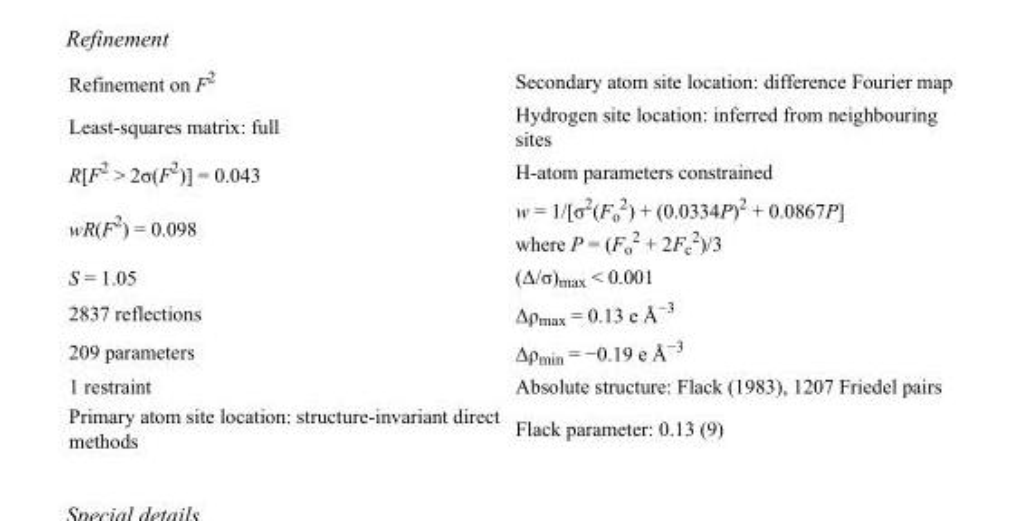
<table><tbody><tr><td>Refinement on F<sup>2</sup></td><td>Secondary atom site location: difference Fourier map</td></tr><tr><td>Least-squares matrix: full</td><td>Hydrogen site location: inferred from neighbouring sites</td></tr><tr><td>R[F<sup>2</sup> &gt; 2σ(F<sup>2</sup>)] = 0.043</td><td>H-atom parameters constrained</td></tr><tr><td>wR(F<sup>2</sup>) = 0.098</td><td>w = 1/[σ<sup>2</sup>(F<sub>o</sub> <sup>2</sup>) + (0.0334P)<sup>2</sup> + 0.0867P] where P = (F<sub>o</sub> <sup>2</sup> + 2F<sub>c</sub> <sup>2</sup>)/3</td></tr><tr><td>S = 1.05</td><td>(Δ/σ)<sub>max</sub> &lt; 0.001</td></tr><tr><td>2837 reflections</td><td>Δρ<sub>max</sub> = 0.13 e Å<sup>−3</sup></td></tr><tr><td>209 parameters</td><td>Δρ<sub>min</sub> = −0.19 e Å<sup>−3</sup></td></tr><tr><td>1 restraint</td><td>Absolute structure: Flack (1983), 1207 Friedel pairs</td></tr><tr><td>Primary atom site location: structure-invariant direct methods</td><td>Flack parameter: 0.13 (9)</td></tr></tbody></table>